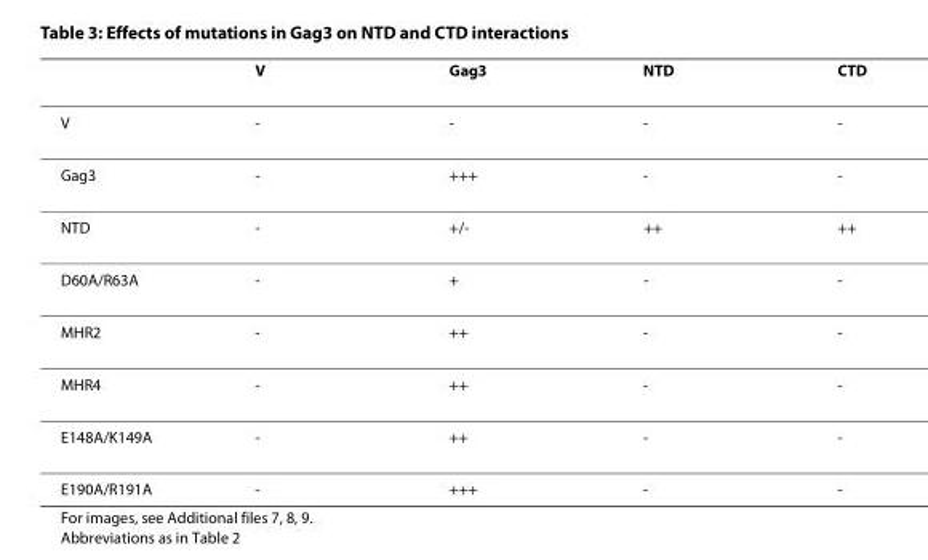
<table><thead><tr><td></td><td>V</td><td>Gag3</td><td>NTD</td><td>CTD</td></tr></thead><tbody><tr><td>V</td><td>-</td><td>-</td><td>-</td><td>-</td></tr><tr><td>Gag3</td><td>-</td><td>+++</td><td>-</td><td>-</td></tr><tr><td>NTD</td><td>-</td><td>+/-</td><td>++</td><td>++</td></tr><tr><td>D60A/R63A</td><td>-</td><td>+</td><td>-</td><td>-</td></tr><tr><td>MHR2</td><td>-</td><td>++</td><td>-</td><td>-</td></tr><tr><td>MHR4</td><td>-</td><td>++</td><td>-</td><td>-</td></tr><tr><td>E148A/K149A</td><td>-</td><td>++</td><td>-</td><td>-</td></tr><tr><td>E190A/R191A</td><td>-</td><td>+++</td><td>-</td><td>-</td></tr></tbody></table>